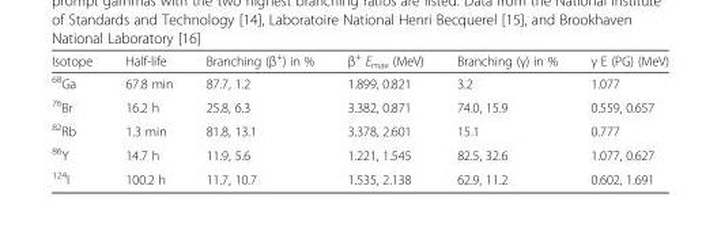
<table><thead><tr><td>Isotope</td><td>Half-life</td><td>Branching (β<sup>+</sup>) in %</td><td>β<sup>+</sup> E<sub>max</sub> (MeV)</td><td>Branching (γ) in %</td><td>γ E (PG) (MeV)</td></tr></thead><tbody><tr><td><sup>68</sup>Ga</td><td>67.8 min</td><td>87.7, 1.2</td><td>1.899, 0.821</td><td>3.2</td><td>1.077</td></tr><tr><td><sup>76</sup>Br</td><td>16.2 h</td><td>25.8, 6.3</td><td>3.382, 0.871</td><td>74.0, 15.9</td><td>0.559, 0.657</td></tr><tr><td><sup>82</sup>Rb</td><td>1.3 min</td><td>81.8, 13.1</td><td>3.378, 2.601</td><td>15.1</td><td>0.777</td></tr><tr><td><sup>86</sup>Y</td><td>14.7 h</td><td>11.9, 5.6</td><td>1.221, 1.545</td><td>82.5, 32.6</td><td>1.077, 0.627</td></tr><tr><td><sup>124</sup>I</td><td>100.2 h</td><td>11.7, 10.7</td><td>1.535, 2.138</td><td>62.9, 11.2</td><td>0.602, 1.691</td></tr></tbody></table>